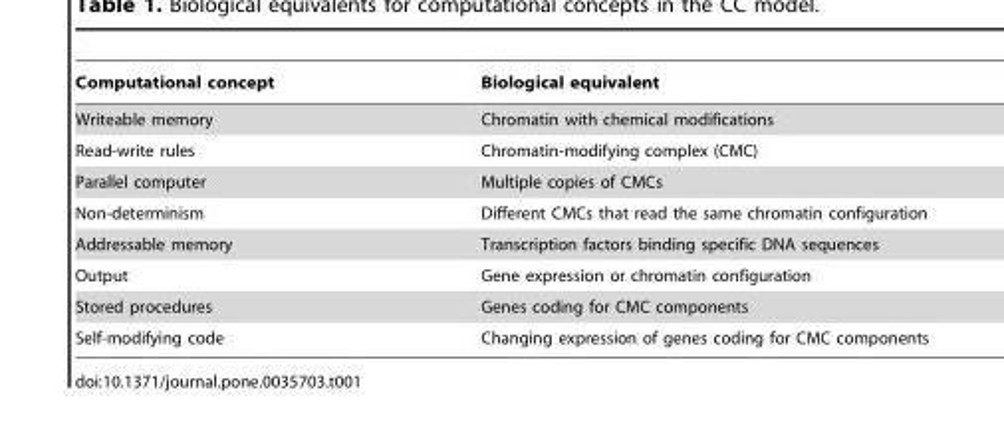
<table><thead><tr><td>Computational concept</td><td>Biological equivalent</td></tr></thead><tbody><tr><td>Writeable memory</td><td>Chromatin with chemical modifications</td></tr><tr><td>Read-write rules</td><td>Chromatin-modifying complex (CMC)</td></tr><tr><td>Parallel computer</td><td>Multiple copies of CMCs</td></tr><tr><td>Non-determinism</td><td>Different CMCs that read the same chromatin configuration</td></tr><tr><td>Addressable memory</td><td>Transcription factors binding specific DNA sequences</td></tr><tr><td>Output</td><td>Gene expression or chromatin configuration</td></tr><tr><td>Stored procedures</td><td>Genes coding for CMC components</td></tr><tr><td>Self-modifying code</td><td>Changing expression of genes coding for CMC components</td></tr></tbody></table>